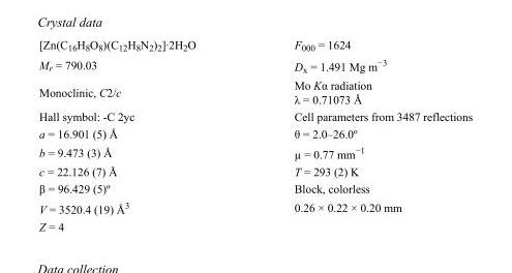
<table><tbody><tr><td>[Zn(C<sub>16</sub>H<sub>8</sub>O<sub>8</sub>)(C<sub>12</sub>H<sub>8</sub>N<sub>2</sub>)<sub>2</sub>]·2H<sub>2</sub>O</td><td>F<sub>000</sub> = 1624</td></tr><tr><td>M<sub>r</sub> = 790.03</td><td>D<sub>x</sub> = 1.491 Mg m<sup>−3</sup></td></tr><tr><td>Monoclinic, C2/c</td><td>Mo Kα radiation λ = 0.71073 Å</td></tr><tr><td>Hall symbol: -C 2yc</td><td>Cell parameters from 3487 reflections</td></tr><tr><td>a = 16.901 (5) Å</td><td>θ = 2.0–26.0º</td></tr><tr><td>b = 9.473 (3) Å</td><td>µ = 0.77 mm<sup>−1</sup></td></tr><tr><td>c = 22.126 (7) Å</td><td>T = 293 (2) K</td></tr><tr><td>β = 96.429 (5)º</td><td>Block, colorless</td></tr><tr><td>V = 3520.4 (19) Å<sup>3</sup></td><td>0.26 × 0.22 × 0.20 mm</td></tr><tr><td>Z = 4</td><td></td></tr></tbody></table>